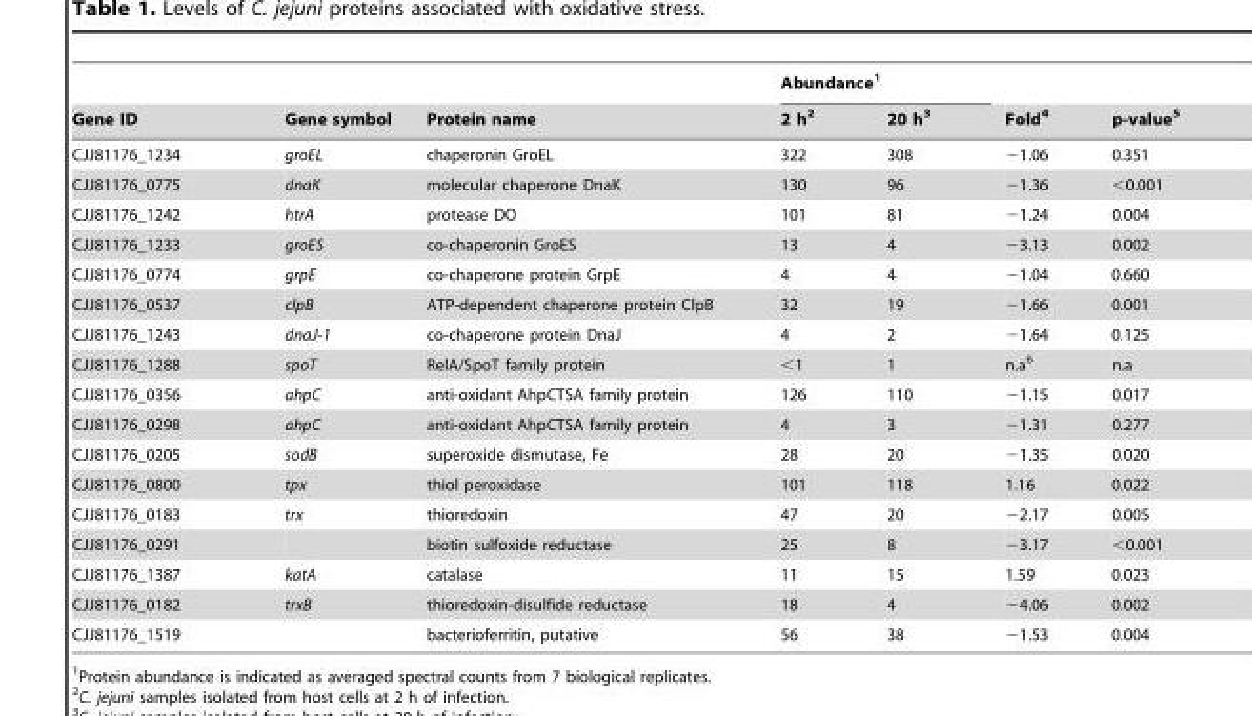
<table><thead><tr><td rowspan="2">Gene ID</td><td rowspan="2">Gene symbol</td><td rowspan="2">Protein name</td><td colspan="2">Abundance<sup>1</sup></td><td rowspan="2">Fold<sup>4</sup></td><td rowspan="2">p-value<sup>5</sup></td></tr><tr><td>2 h<sup>2</sup></td><td>20 h<sup>3</sup></td></tr></thead><tbody><tr><td>CJJ81176_1234</td><td>groEL</td><td>chaperonin GroEL</td><td>322</td><td>308</td><td>−1.06</td><td>0.351</td></tr><tr><td>CJJ81176_0775</td><td>dnaK</td><td>molecular chaperone DnaK</td><td>130</td><td>96</td><td>−1.36</td><td>&lt;0.001</td></tr><tr><td>CJJ81176_1242</td><td>htrA</td><td>protease DO</td><td>101</td><td>81</td><td>−1.24</td><td>0.004</td></tr><tr><td>CJJ81176_1233</td><td>groES</td><td>co-chaperonin GroES</td><td>13</td><td>4</td><td>−3.13</td><td>0.002</td></tr><tr><td>CJJ81176_0774</td><td>grpE</td><td>co-chaperone protein GrpE</td><td>4</td><td>4</td><td>−1.04</td><td>0.660</td></tr><tr><td>CJJ81176_0537</td><td>clpB</td><td>ATP-dependent chaperone protein ClpB</td><td>32</td><td>19</td><td>−1.66</td><td>0.001</td></tr><tr><td>CJJ81176_1243</td><td>dnaJ-1</td><td>co-chaperone protein DnaJ</td><td>4</td><td>2</td><td>−1.64</td><td>0.125</td></tr><tr><td>CJJ81176_1288</td><td>spoT</td><td>RelA/SpoT family protein</td><td>&lt;1</td><td>1</td><td>n.a<sup>6</sup></td><td>n.a</td></tr><tr><td>CJJ81176_0356</td><td>ahpC</td><td>anti-oxidant AhpCTSA family protein</td><td>126</td><td>110</td><td>−1.15</td><td>0.017</td></tr><tr><td>CJJ81176_0298</td><td>ahpC</td><td>anti-oxidant AhpCTSA family protein</td><td>4</td><td>3</td><td>−1.31</td><td>0.277</td></tr><tr><td>CJJ81176_0205</td><td>sodB</td><td>superoxide dismutase, Fe</td><td>28</td><td>20</td><td>−1.35</td><td>0.020</td></tr><tr><td>CJJ81176_0800</td><td>tpx</td><td>thiol peroxidase</td><td>101</td><td>118</td><td>1.16</td><td>0.022</td></tr><tr><td>CJJ81176_0183</td><td>trx</td><td>thioredoxin</td><td>47</td><td>20</td><td>−2.17</td><td>0.005</td></tr><tr><td>CJJ81176_0291</td><td></td><td>biotin sulfoxide reductase</td><td>25</td><td>8</td><td>−3.17</td><td>&lt;0.001</td></tr><tr><td>CJJ81176_1387</td><td>katA</td><td>catalase</td><td>11</td><td>15</td><td>1.59</td><td>0.023</td></tr><tr><td>CJJ81176_0182</td><td>trxB</td><td>thioredoxin-disulfide reductase</td><td>18</td><td>4</td><td>−4.06</td><td>0.002</td></tr><tr><td>CJJ81176_1519</td><td></td><td>bacterioferritin, putative</td><td>56</td><td>38</td><td>−1.53</td><td>0.004</td></tr></tbody></table>